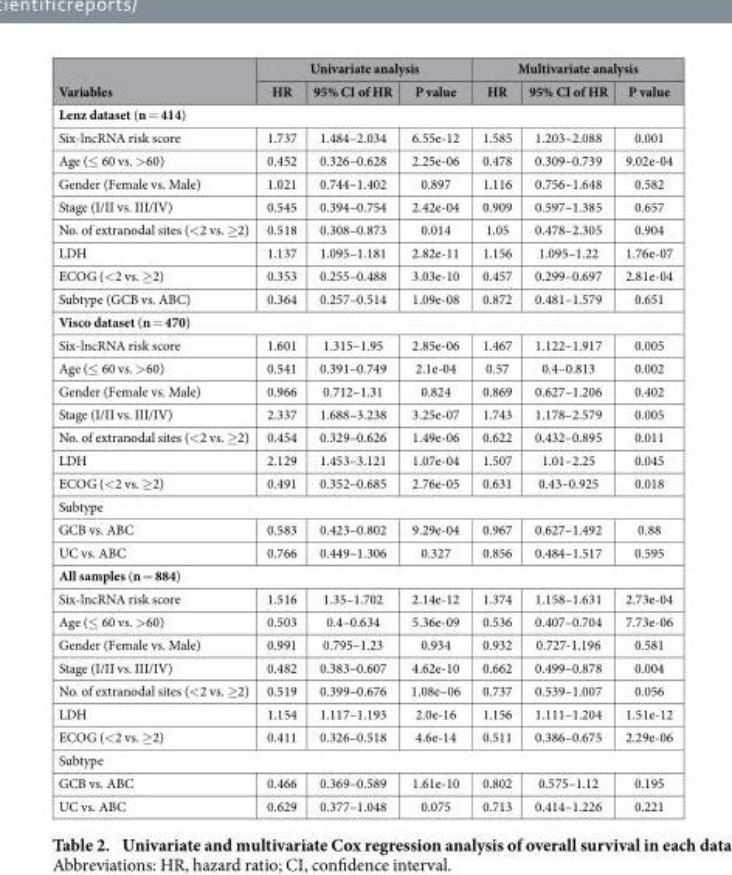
<table><thead><tr><td rowspan="2">Variables</td><td colspan="3">Univariate analysis</td><td colspan="3">Multivariate analysis</td></tr><tr><td>HR</td><td>95% CI of HR</td><td>P value</td><td>HR</td><td>95% CI of HR</td><td>P value</td></tr></thead><tbody><tr><td colspan="7">Lenz dataset (n = 414)</td></tr><tr><td>Six-lncRNA risk score</td><td>1.737</td><td>1.484–2.034</td><td>6.55e-12</td><td>1.585</td><td>1.203–2.088</td><td>0.001</td></tr><tr><td>Age (≤ 60 vs. &gt; 60)</td><td>0.452</td><td>0.326–0.628</td><td>2.25e-06</td><td>0.478</td><td>0.309–0.739</td><td>9.02e-04</td></tr><tr><td>Gender (Female vs. Male)</td><td>1.021</td><td>0.744–1.402</td><td>0.897</td><td>1.116</td><td>0.756–1.648</td><td>0.582</td></tr><tr><td>Stage (I/II vs. III/IV)</td><td>0.545</td><td>0.394–0.754</td><td>2.42e-04</td><td>0.909</td><td>0.597–1.385</td><td>0.657</td></tr><tr><td>No. of extranodal sites (&lt; 2 vs. ≥ 2)</td><td>0.518</td><td>0.308–0.873</td><td>0.014</td><td>1.05</td><td>0.478–2.305</td><td>0.904</td></tr><tr><td>LDH</td><td>1.137</td><td>1.095–1.181</td><td>2.82e-11</td><td>1.156</td><td>1.095–1.22</td><td>1.76e-07</td></tr><tr><td>ECOG (&lt; 2 vs. ≥ 2)</td><td>0.353</td><td>0.255–0.488</td><td>3.03e-10</td><td>0.457</td><td>0.299–0.697</td><td>2.81e-04</td></tr><tr><td>Subtype (GCB vs. ABC)</td><td>0.364</td><td>0.257–0.514</td><td>1.09e-08</td><td>0.872</td><td>0.481–1.579</td><td>0.651</td></tr><tr><td colspan="7">Visco dataset (n = 470)</td></tr><tr><td>Six-lncRNA risk score</td><td>1.601</td><td>1.315–1.95</td><td>2.85e-06</td><td>1.467</td><td>1.122–1.917</td><td>0.005</td></tr><tr><td>Age (≤ 60 vs. &gt; 60)</td><td>0.541</td><td>0.391–0.749</td><td>2.1e-04</td><td>0.57</td><td>0.4–0.813</td><td>0.002</td></tr><tr><td>Gender (Female vs. Male)</td><td>0.966</td><td>0.712–1.31</td><td>0.824</td><td>0.869</td><td>0.627–1.206</td><td>0.402</td></tr><tr><td>Stage (I/II vs. III/IV)</td><td>2.337</td><td>1.688–3.238</td><td>3.25e-07</td><td>1.743</td><td>1.178–2.579</td><td>0.005</td></tr><tr><td>No. of extranodal sites (&lt; 2 vs. ≥ 2)</td><td>0.454</td><td>0.329–0.626</td><td>1.49e-06</td><td>0.622</td><td>0.432–0.895</td><td>0.011</td></tr><tr><td>LDH</td><td>2.129</td><td>1.453–3.121</td><td>1.07e-04</td><td>1.507</td><td>1.01–2.25</td><td>0.045</td></tr><tr><td>ECOG (&lt; 2 vs. ≥ 2)</td><td>0.491</td><td>0.352–0.685</td><td>2.76e-05</td><td>0.631</td><td>0.43–0.925</td><td>0.018</td></tr><tr><td colspan="7">Subtype</td></tr><tr><td>GCB vs. ABC</td><td>0.583</td><td>0.423–0.802</td><td>9.29e-04</td><td>0.967</td><td>0.627–1.492</td><td>0.88</td></tr><tr><td>UC vs. ABC</td><td>0.766</td><td>0.449–1.306</td><td>0.327</td><td>0.856</td><td>0.484–1.517</td><td>0.595</td></tr><tr><td colspan="7">All samples (n = 884)</td></tr><tr><td>Six-lncRNA risk score</td><td>1.516</td><td>1.35–1.702</td><td>2.14e-12</td><td>1.374</td><td>1.158–1.631</td><td>2.73e-04</td></tr><tr><td>Age (≤ 60 vs. &gt; 60)</td><td>0.503</td><td>0.4–0.634</td><td>5.36e-09</td><td>0.536</td><td>0.407–0.704</td><td>7.73e-06</td></tr><tr><td>Gender (Female vs. Male)</td><td>0.991</td><td>0.795–1.23</td><td>0.934</td><td>0.932</td><td>0.727-1.196</td><td>0.581</td></tr><tr><td>Stage (I/II vs. III/IV)</td><td>0.482</td><td>0.383–0.607</td><td>4.62e-10</td><td>0.662</td><td>0.499–0.878</td><td>0.004</td></tr><tr><td>No. of extranodal sites (&lt; 2 vs. ≥ 2)</td><td>0.519</td><td>0.399–0.676</td><td>1.08e–06</td><td>0.737</td><td>0.539–1.007</td><td>0.056</td></tr><tr><td>LDH</td><td>1.154</td><td>1.117–1.193</td><td>2.0e-16</td><td>1.156</td><td>1.111–1.204</td><td>1.51e-12</td></tr><tr><td>ECOG (&lt; 2 vs. ≥ 2)</td><td>0.411</td><td>0.326–0.518</td><td>4.6e-14</td><td>0.511</td><td>0.386–0.675</td><td>2.29e-06</td></tr><tr><td colspan="7">Subtype</td></tr><tr><td>GCB vs. ABC</td><td>0.466</td><td>0.369–0.589</td><td>1.61e-10</td><td>0.802</td><td>0.575–1.12</td><td>0.195</td></tr><tr><td>UC vs. ABC</td><td>0.629</td><td>0.377–1.048</td><td>0.075</td><td>0.713</td><td>0.414–1.226</td><td>0.221</td></tr></tbody></table>